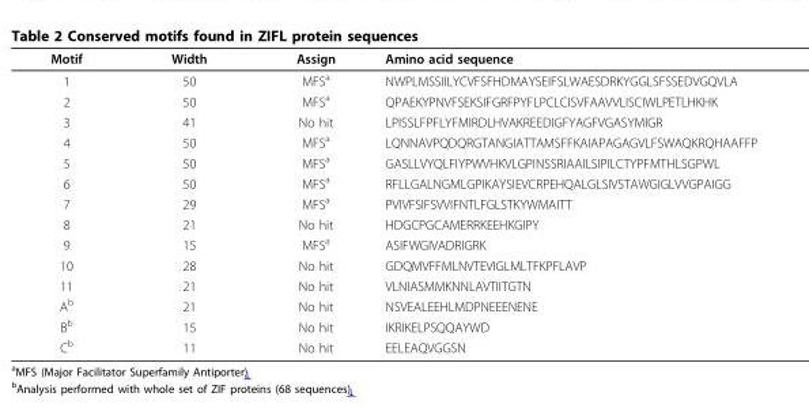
<table><thead><tr><td>Motif</td><td>Width</td><td>Assign</td><td>Amino acid sequence</td></tr></thead><tbody><tr><td>1</td><td>50</td><td>MFS<sup>a</sup></td><td>NWPLMSSIILYCVFSFHDMAYSEIFSLWAESDRKYGGLSFSSEDVGQVLA</td></tr><tr><td>2</td><td>50</td><td>MFS<sup>a</sup></td><td>QPAEKYPNVFSEKSIFGRFPYFLPCLCISVFAAVVLISCIWLPETLHKHK</td></tr><tr><td>3</td><td>41</td><td>No hit</td><td>LPISSLFPFLYFMIRDLHVAKREEDIGFYAGFVGASYMIGR</td></tr><tr><td>4</td><td>50</td><td>MFS<sup>a</sup></td><td>LQNNAVPQDQRGTANGIATTAMSFFKAIAPAGAGVLFSWAQKRQHAAFFP</td></tr><tr><td>5</td><td>50</td><td>MFS<sup>a</sup></td><td>GASLLVYQLFIYPWVHKVLGPINSSRIAAILSIPILCTYPFMTHLSGPWL</td></tr><tr><td>6</td><td>50</td><td>MFS<sup>a</sup></td><td>RFLLGALNGMLGPIKAYSIEVCRPEHQALGLSIVSTAWGIGLVVGPAIGG</td></tr><tr><td>7</td><td>29</td><td>MFS<sup>a</sup></td><td>PVIVFSIFSVVIFNTLFGLSTKYWMAITT</td></tr><tr><td>8</td><td>21</td><td>No hit</td><td>HDGCPGCAMERRKEEHKGIPY</td></tr><tr><td>9</td><td>15</td><td>MFS<sup>a</sup></td><td>ASIFWGIVADRIGRK</td></tr><tr><td>10</td><td>28</td><td>No hit</td><td>GDQMVFFMLNVTEVIGLMLTFKPFLAVP</td></tr><tr><td>11</td><td>21</td><td>No hit</td><td>VLNIASMMKNNLAVTIITGTN</td></tr><tr><td>A<sup>b</sup></td><td>21</td><td>No hit</td><td>NSVEALEEHLMDPNEEENENE</td></tr><tr><td>B<sup>b</sup></td><td>15</td><td>No hit</td><td>IKRIKELPSQQAYWD</td></tr><tr><td>C<sup>b</sup></td><td>11</td><td>No hit</td><td>EELEAQVGGSN</td></tr></tbody></table>